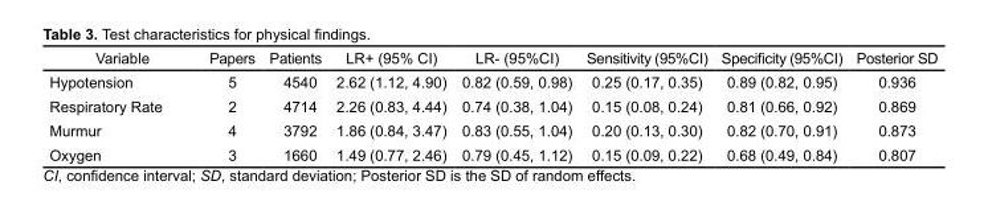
<table><thead><tr><td>Variable</td><td>Papers</td><td>Patients</td><td>LR+ (95% CI)</td><td>LR- (95%CI)</td><td>Sensitivity (95%CI)</td><td>Specificity (95%CI)</td><td>Posterior SD</td></tr></thead><tbody><tr><td>Hypotension</td><td>5</td><td>4540</td><td>2.62 (1.12, 4.90)</td><td>0.82 (0.59, 0.98)</td><td>0.25 (0.17, 0.35)</td><td>0.89 (0.82, 0.95)</td><td>0.936</td></tr><tr><td>Respiratory Rate</td><td>2</td><td>4714</td><td>2.26 (0.83, 4.44)</td><td>0.74 (0.38, 1.04)</td><td>0.15 (0.08, 0.24)</td><td>0.81 (0.66, 0.92)</td><td>0.869</td></tr><tr><td>Murmur</td><td>4</td><td>3792</td><td>1.86 (0.84, 3.47)</td><td>0.83 (0.55, 1.04)</td><td>0.20 (0.13, 0.30)</td><td>0.82 (0.70, 0.91)</td><td>0.873</td></tr><tr><td>Oxygen</td><td>3</td><td>1660</td><td>1.49 (0.77, 2.46)</td><td>0.79 (0.45, 1.12)</td><td>0.15 (0.09, 0.22)</td><td>0.68 (0.49, 0.84)</td><td>0.807</td></tr></tbody></table>